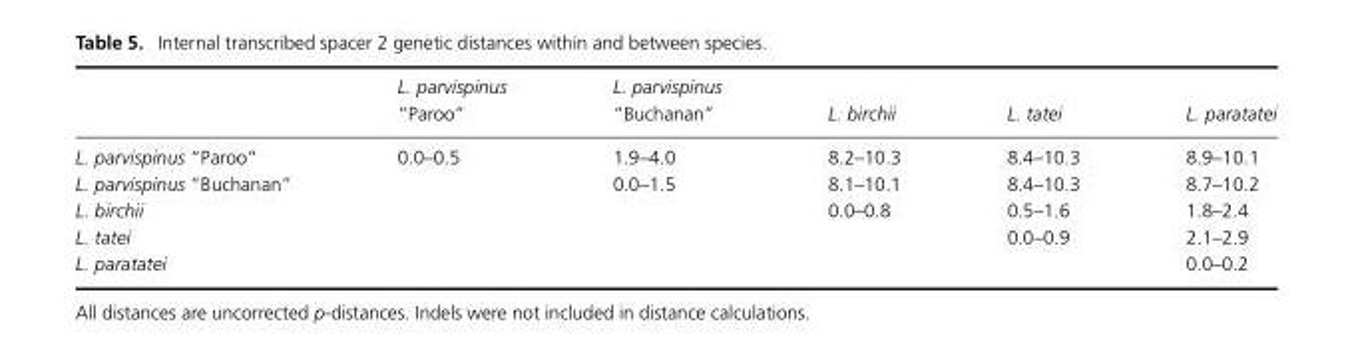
<table><thead><tr><td></td><td>L. parvispinus “Paroo”</td><td>L. parvispinus “Buchanan”</td><td>L. birchii</td><td>L. tatei</td><td>L. paratatei</td></tr></thead><tbody><tr><td>L. parvispinus “Paroo”</td><td>0.0–0.5</td><td>1.9–4.0</td><td>8.2–10.3</td><td>8.4–10.3</td><td>8.9–10.1</td></tr><tr><td>L. parvispinus “Buchanan”</td><td></td><td>0.0–1.5</td><td>8.1–10.1</td><td>8.4–10.3</td><td>8.7–10.2</td></tr><tr><td>L. birchii</td><td></td><td></td><td>0.0–0.8</td><td>0.5–1.6</td><td>1.8–2.4</td></tr><tr><td>L. tatei</td><td></td><td></td><td></td><td>0.0–0.9</td><td>2.1–2.9</td></tr><tr><td>L. paratatei</td><td></td><td></td><td></td><td></td><td>0.0–0.2</td></tr></tbody></table>